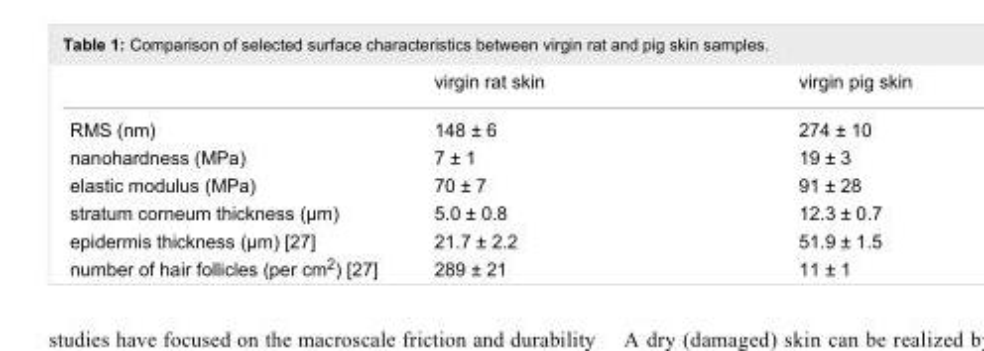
<table><thead><tr><td></td><td>virgin rat skin</td><td>virgin pig skin</td></tr></thead><tbody><tr><td>RMS (nm)</td><td>148 ± 6</td><td>274 ± 10</td></tr><tr><td>nanohardness (MPa)</td><td>7 ± 1</td><td>19 ± 3</td></tr><tr><td>elastic modulus (MPa)</td><td>70 ± 7</td><td>91 ± 28</td></tr><tr><td>stratum corneum thickness (µm)</td><td>5.0 ± 0.8</td><td>12.3 ± 0.7</td></tr><tr><td>epidermis thickness (µm) [27]</td><td>21.7 ± 2.2</td><td>51.9 ± 1.5</td></tr><tr><td>number of hair follicles (per cm<sup>2</sup>) [27]</td><td>289 ± 21</td><td>11 ± 1</td></tr></tbody></table>